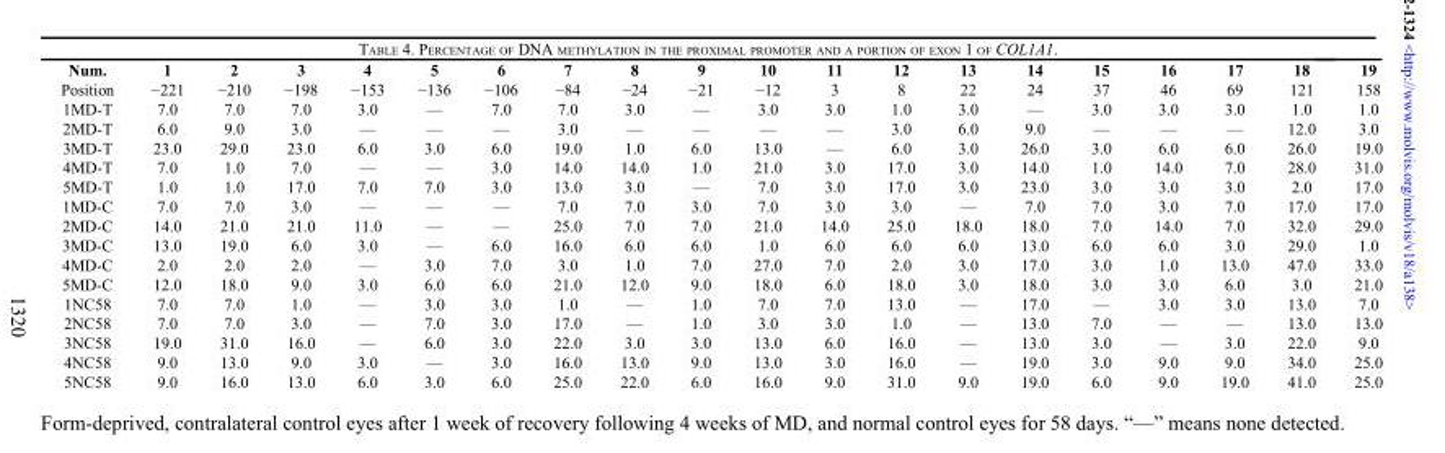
<table><thead><tr><td>Num.</td><td>1</td><td>2</td><td>3</td><td>4</td><td>5</td><td>6</td><td>7</td><td>8</td><td>9</td><td>10</td><td>11</td><td>12</td><td>13</td><td>14</td><td>15</td><td>16</td><td>17</td><td>18</td><td>19</td></tr></thead><tbody><tr><td>Position</td><td>−221</td><td>−210</td><td>−198</td><td>−153</td><td>−136</td><td>−106</td><td>−84</td><td>−24</td><td>−21</td><td>−12</td><td>3</td><td>8</td><td>22</td><td>24</td><td>37</td><td>46</td><td>69</td><td>121</td><td>158</td></tr><tr><td>1MD-T</td><td>7.0</td><td>7.0</td><td>7.0</td><td>3.0</td><td>—</td><td>7.0</td><td>7.0</td><td>3.0</td><td>—</td><td>3.0</td><td>3.0</td><td>1.0</td><td>3.0</td><td>—</td><td>3.0</td><td>3.0</td><td>3.0</td><td>1.0</td><td>1.0</td></tr><tr><td>2MD-T</td><td>6.0</td><td>9.0</td><td>3.0</td><td>—</td><td>—</td><td>—</td><td>3.0</td><td>—</td><td>—</td><td>—</td><td>—</td><td>3.0</td><td>6.0</td><td>9.0</td><td>—</td><td>—</td><td>—</td><td>12.0</td><td>3.0</td></tr><tr><td>3MD-T</td><td>23.0</td><td>29.0</td><td>23.0</td><td>6.0</td><td>3.0</td><td>6.0</td><td>19.0</td><td>1.0</td><td>6.0</td><td>13.0</td><td>—</td><td>6.0</td><td>3.0</td><td>26.0</td><td>3.0</td><td>6.0</td><td>6.0</td><td>26.0</td><td>19.0</td></tr><tr><td>4MD-T</td><td>7.0</td><td>1.0</td><td>7.0</td><td>—</td><td>—</td><td>3.0</td><td>14.0</td><td>14.0</td><td>1.0</td><td>21.0</td><td>3.0</td><td>17.0</td><td>3.0</td><td>14.0</td><td>1.0</td><td>14.0</td><td>7.0</td><td>28.0</td><td>31.0</td></tr><tr><td>5MD-T</td><td>1.0</td><td>1.0</td><td>17.0</td><td>7.0</td><td>7.0</td><td>3.0</td><td>13.0</td><td>3.0</td><td>—</td><td>7.0</td><td>3.0</td><td>17.0</td><td>3.0</td><td>23.0</td><td>3.0</td><td>3.0</td><td>3.0</td><td>2.0</td><td>17.0</td></tr><tr><td>1MD-C</td><td>7.0</td><td>7.0</td><td>3.0</td><td>—</td><td>—</td><td>—</td><td>7.0</td><td>7.0</td><td>3.0</td><td>7.0</td><td>3.0</td><td>3.0</td><td>—</td><td>7.0</td><td>7.0</td><td>3.0</td><td>7.0</td><td>17.0</td><td>17.0</td></tr><tr><td>2MD-C</td><td>14.0</td><td>21.0</td><td>21.0</td><td>11.0</td><td>—</td><td>—</td><td>25.0</td><td>7.0</td><td>7.0</td><td>21.0</td><td>14.0</td><td>25.0</td><td>18.0</td><td>18.0</td><td>7.0</td><td>14.0</td><td>7.0</td><td>32.0</td><td>29.0</td></tr><tr><td>3MD-C</td><td>13.0</td><td>19.0</td><td>6.0</td><td>3.0</td><td>—</td><td>6.0</td><td>16.0</td><td>6.0</td><td>6.0</td><td>1.0</td><td>6.0</td><td>6.0</td><td>6.0</td><td>13.0</td><td>6.0</td><td>6.0</td><td>3.0</td><td>29.0</td><td>1.0</td></tr><tr><td>4MD-C</td><td>2.0</td><td>2.0</td><td>2.0</td><td>—</td><td>3.0</td><td>7.0</td><td>3.0</td><td>1.0</td><td>7.0</td><td>27.0</td><td>7.0</td><td>2.0</td><td>3.0</td><td>17.0</td><td>3.0</td><td>1.0</td><td>13.0</td><td>47.0</td><td>33.0</td></tr><tr><td>5MD-C</td><td>12.0</td><td>18.0</td><td>9.0</td><td>3.0</td><td>6.0</td><td>6.0</td><td>21.0</td><td>12.0</td><td>9.0</td><td>18.0</td><td>6.0</td><td>18.0</td><td>3.0</td><td>18.0</td><td>3.0</td><td>3.0</td><td>6.0</td><td>3.0</td><td>21.0</td></tr><tr><td>1NC58</td><td>7.0</td><td>7.0</td><td>1.0</td><td>—</td><td>3.0</td><td>3.0</td><td>1.0</td><td>—</td><td>1.0</td><td>7.0</td><td>7.0</td><td>13.0</td><td>—</td><td>17.0</td><td>—</td><td>3.0</td><td>3.0</td><td>13.0</td><td>7.0</td></tr><tr><td>2NC58</td><td>7.0</td><td>7.0</td><td>3.0</td><td>—</td><td>7.0</td><td>3.0</td><td>17.0</td><td>—</td><td>1.0</td><td>3.0</td><td>3.0</td><td>1.0</td><td>—</td><td>13.0</td><td>7.0</td><td>—</td><td>—</td><td>13.0</td><td>13.0</td></tr><tr><td>3NC58</td><td>19.0</td><td>31.0</td><td>16.0</td><td>—</td><td>6.0</td><td>3.0</td><td>22.0</td><td>3.0</td><td>3.0</td><td>13.0</td><td>6.0</td><td>16.0</td><td>—</td><td>13.0</td><td>3.0</td><td>—</td><td>3.0</td><td>22.0</td><td>9.0</td></tr><tr><td>4NC58</td><td>9.0</td><td>13.0</td><td>9.0</td><td>3.0</td><td>—</td><td>3.0</td><td>16.0</td><td>13.0</td><td>9.0</td><td>13.0</td><td>3.0</td><td>16.0</td><td>—</td><td>19.0</td><td>3.0</td><td>9.0</td><td>9.0</td><td>34.0</td><td>25.0</td></tr><tr><td>5NC58</td><td>9.0</td><td>16.0</td><td>13.0</td><td>6.0</td><td>3.0</td><td>6.0</td><td>25.0</td><td>22.0</td><td>6.0</td><td>16.0</td><td>9.0</td><td>31.0</td><td>9.0</td><td>19.0</td><td>6.0</td><td>9.0</td><td>19.0</td><td>41.0</td><td>25.0</td></tr></tbody></table>